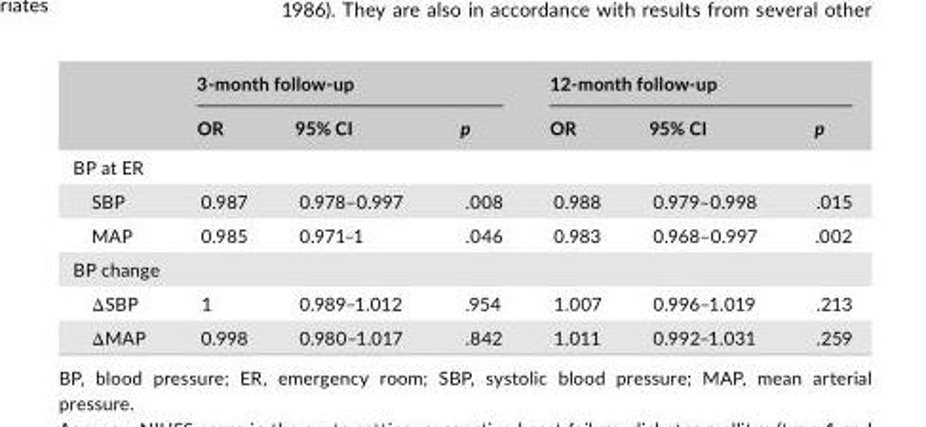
<table><thead><tr><td rowspan="2"></td><td colspan="3">3- month follow- up</td><td colspan="3">12- month follow- up</td></tr><tr><td>OR</td><td>95% CI</td><td>p</td><td>OR</td><td>95% CI</td><td>p</td></tr></thead><tbody><tr><td colspan="7">BP at ER</td></tr><tr><td>SBP</td><td>0.987</td><td>0.978–0.997</td><td>.008</td><td>0.988</td><td>0.979–0.998</td><td>.015</td></tr><tr><td>MAP</td><td>0.985</td><td>0.971–1</td><td>.046</td><td>0.983</td><td>0.968–0.997</td><td>.002</td></tr><tr><td colspan="7">BP change</td></tr><tr><td>ΔSBP</td><td>1</td><td>0.989–1.012</td><td>.954</td><td>1.007</td><td>0.996–1.019</td><td>.213</td></tr><tr><td>ΔMAP</td><td>0.998</td><td>0.980–1.017</td><td>.842</td><td>1.011</td><td>0.992–1.031</td><td>.259</td></tr></tbody></table>